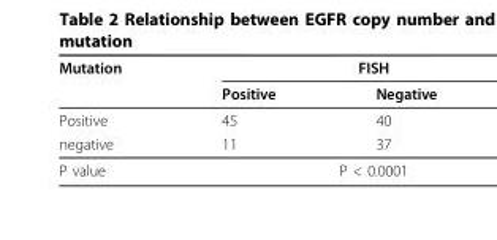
<table><thead><tr><td rowspan="2">Mutation</td><td colspan="2">FISH</td></tr><tr><td>Positive</td><td>Negative</td></tr></thead><tbody><tr><td>Positive</td><td>45</td><td>40</td></tr><tr><td>negative</td><td>11</td><td>37</td></tr><tr><td>P value</td><td colspan="2">P &lt; 0.0001</td></tr></tbody></table>